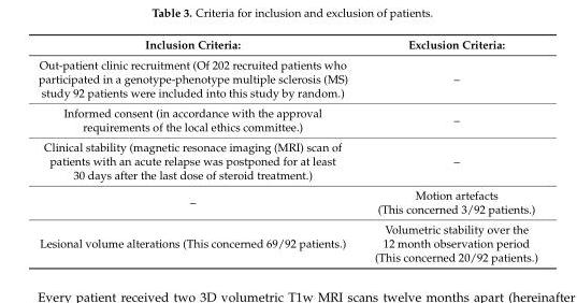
<table><thead><tr><td>Inclusion Criteria:</td><td>Exclusion Criteria:</td></tr></thead><tbody><tr><td>Out-patient clinic recruitment (Of 202 recruited patients who participated in a genotype-phenotype multiple sclerosis (MS) study 92 patients were included into this study by random.)</td><td>–</td></tr><tr><td>Informed consent (in accordance with the approval requirements of the local ethics committee.)</td><td>–</td></tr><tr><td>Clinical stability (magnetic resonace imaging (MRI) scan of patients with an acute relapse was postponed for at least 30 days after the last dose of steroid treatment.)</td><td>–</td></tr><tr><td>–</td><td>Motion artefacts (This concerned 3/92 patients.)</td></tr><tr><td>Lesional volume alterations (This concerned 69/92 patients.)</td><td>Volumetric stability over the 12 month observation period (This concerned 20/92 patients.)</td></tr></tbody></table>